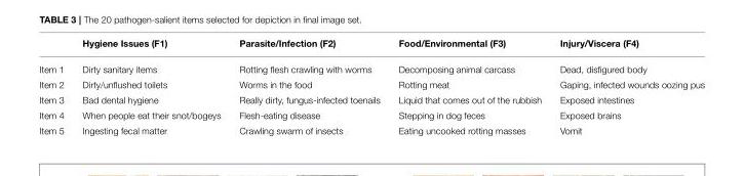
<table><thead><tr><td></td><td>Hygiene Issues (F1)</td><td>Parasite/Infection (F2)</td><td>Food/Environmental (F3)</td><td>Injury/Viscera (F4)</td></tr></thead><tbody><tr><td>Item 1</td><td>Dirty sanitary items</td><td>Rotting flesh crawling with worms</td><td>Decomposing animal carcass</td><td>Dead, disfigured body</td></tr><tr><td>Item 2</td><td>Dirty/unflushed toilets</td><td>Worms in the food</td><td>Rotting meat</td><td>Gaping, infected wounds oozing pus</td></tr><tr><td>Item 3</td><td>Bad dental hygiene</td><td>Really dirty, fungus-infected toenails</td><td>Liquid that comes out of the rubbish</td><td>Exposed intestines</td></tr><tr><td>Item 4</td><td>When people eat their snot/bogeys</td><td>Flesh-eating disease</td><td>Stepping in dog feces</td><td>Exposed brains</td></tr><tr><td>Item 5</td><td>Ingesting fecal matter</td><td>Crawling swarm of insects</td><td>Eating uncooked rotting masses</td><td>Vomit</td></tr></tbody></table>